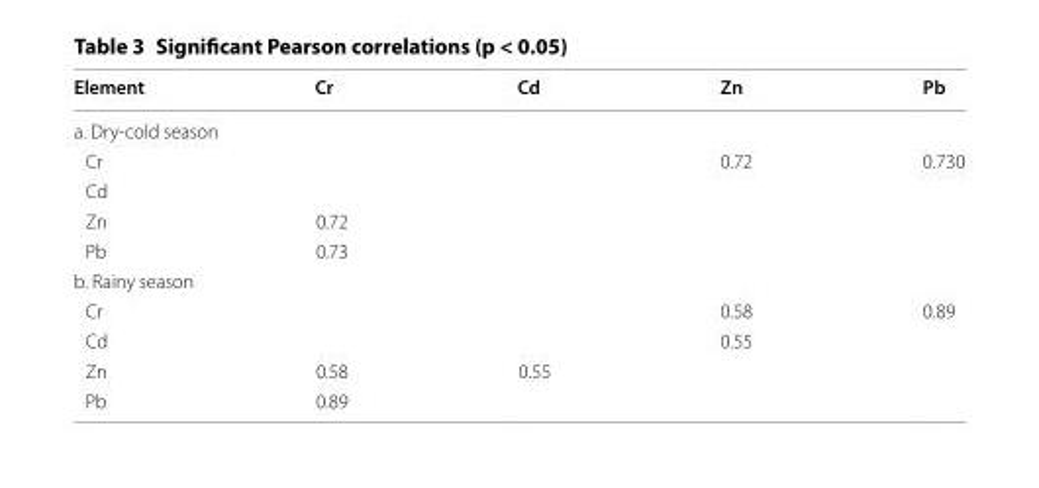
<table><thead><tr><td>Element</td><td>Cr</td><td>Cd</td><td>Zn</td><td>Pb</td></tr></thead><tbody><tr><td colspan="5">a. Dry‑cold season</td></tr><tr><td>Cr</td><td></td><td></td><td>0.72</td><td>0.730</td></tr><tr><td colspan="5">Cd</td></tr><tr><td>Zn</td><td>0.72</td><td></td><td></td><td></td></tr><tr><td>Pb</td><td>0.73</td><td></td><td></td><td></td></tr><tr><td colspan="5">b. Rainy season</td></tr><tr><td>Cr</td><td></td><td></td><td>0.58</td><td>0.89</td></tr><tr><td>Cd</td><td></td><td></td><td>0.55</td><td></td></tr><tr><td>Zn</td><td>0.58</td><td>0.55</td><td></td><td></td></tr><tr><td>Pb</td><td>0.89</td><td></td><td></td><td></td></tr></tbody></table>